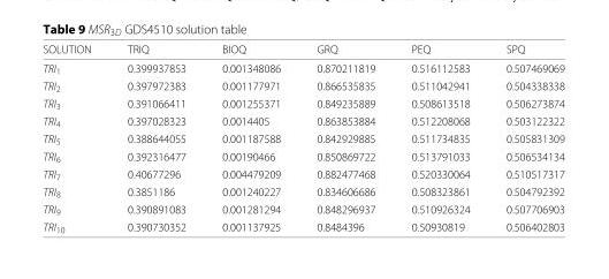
<table><thead><tr><td>SOLUTION</td><td>TRIQ</td><td>BIOQ</td><td>GRQ</td><td>PEQ</td><td>SPQ</td></tr></thead><tbody><tr><td>TRI<sub>1</sub></td><td>0.399937853</td><td>0.001348086</td><td>0.870211819</td><td>0.516112583</td><td>0.507469069</td></tr><tr><td>TRI<sub>2</sub></td><td>0.397972383</td><td>0.001177971</td><td>0.866535835</td><td>0.511042941</td><td>0.504338338</td></tr><tr><td>TRI<sub>3</sub></td><td>0.391066411</td><td>0.001255371</td><td>0.849235889</td><td>0.508613518</td><td>0.506273874</td></tr><tr><td>TRI<sub>4</sub></td><td>0.397028323</td><td>0.0014405</td><td>0.863853884</td><td>0.512208068</td><td>0.503122322</td></tr><tr><td>TRI<sub>5</sub></td><td>0.388644055</td><td>0.001187588</td><td>0.842929885</td><td>0.511734835</td><td>0.505831309</td></tr><tr><td>TRI<sub>6</sub></td><td>0.392316477</td><td>0.00190466</td><td>0.850869722</td><td>0.513791033</td><td>0.506534134</td></tr><tr><td>TRI<sub>7</sub></td><td>0.40677296</td><td>0.004479209</td><td>0.882477468</td><td>0.520330064</td><td>0.510517317</td></tr><tr><td>TRI<sub>8</sub></td><td>0.3851186</td><td>0.001240227</td><td>0.834606686</td><td>0.508323861</td><td>0.504792392</td></tr><tr><td>TRI<sub>9</sub></td><td>0.390891083</td><td>0.001281294</td><td>0.848296937</td><td>0.510926324</td><td>0.507706903</td></tr><tr><td>TRI<sub>10</sub></td><td>0.390730352</td><td>0.001137925</td><td>0.8484396</td><td>0.50930819</td><td>0.506402803</td></tr></tbody></table>